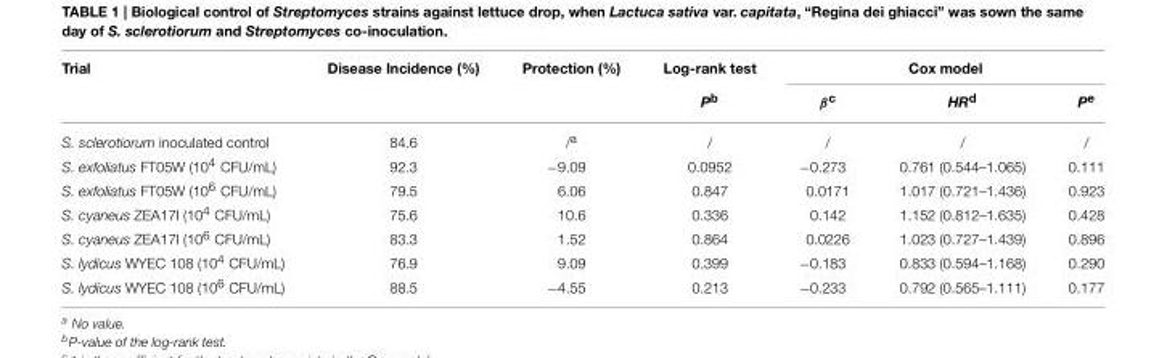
<table><thead><tr><td rowspan="2">Trial</td><td rowspan="2">Disease Incidence (%)</td><td rowspan="2">Protection (%)</td><td rowspan="2">Log-rank test P<sup>b</sup></td><td colspan="3">Cox model</td></tr><tr><td>β<sup>c</sup></td><td>HR<sup>d</sup></td><td>P<sup>e</sup></td></tr></thead><tbody><tr><td>S. sclerotiorum inoculated control</td><td>84.6</td><td>/<sup>a</sup></td><td>/</td><td>/</td><td>/</td><td>/</td></tr><tr><td>S. exfoliatus FT05W (10<sup>4</sup> CFU/mL)</td><td>92.3</td><td>−9.09</td><td>0.0952</td><td>−0.273</td><td>0.761 (0.544–1.065)</td><td>0.111</td></tr><tr><td>S. exfoliatus FT05W (10<sup>6</sup> CFU/mL)</td><td>79.5</td><td>6.06</td><td>0.847</td><td>0.0171</td><td>1.017 (0.721–1.436)</td><td>0.923</td></tr><tr><td>S. cyaneus ZEA17I (10<sup>4</sup> CFU/mL)</td><td>75.6</td><td>10.6</td><td>0.336</td><td>0.142</td><td>1.152 (0.812–1.635)</td><td>0.428</td></tr><tr><td>S. cyaneus ZEA17I (10<sup>6</sup> CFU/mL)</td><td>83.3</td><td>1.52</td><td>0.864</td><td>0.0226</td><td>1.023 (0.727–1.439)</td><td>0.896</td></tr><tr><td>S. lydicus WYEC 108 (10<sup>4</sup> CFU/mL)</td><td>76.9</td><td>9.09</td><td>0.399</td><td>−0.183</td><td>0.833 (0.594–1.168)</td><td>0.290</td></tr><tr><td>S. lydicus WYEC 108 (10<sup>6</sup> CFU/mL)</td><td>88.5</td><td>−4.55</td><td>0.213</td><td>−0.233</td><td>0.792 (0.565–1.111)</td><td>0.177</td></tr></tbody></table>